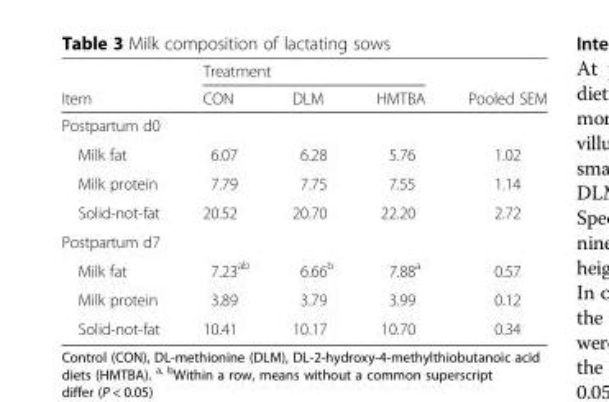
<table><thead><tr><td rowspan="2">Item</td><td colspan="3">Treatment</td><td rowspan="2">Pooled SEM</td></tr><tr><td>CON</td><td>DLM</td><td>HMTBA</td></tr></thead><tbody><tr><td colspan="5">Postpartum d0</td></tr><tr><td>Milk fat</td><td>6.07</td><td>6.28</td><td>5.76</td><td>1.02</td></tr><tr><td>Milk protein</td><td>7.79</td><td>7.75</td><td>7.55</td><td>1.14</td></tr><tr><td>Solid-not-fat</td><td>20.52</td><td>20.70</td><td>22.20</td><td>2.72</td></tr><tr><td colspan="5">Postpartum d7</td></tr><tr><td>Milk fat</td><td>7.23<sup>ab</sup></td><td>6.66<sup>b</sup></td><td>7.88<sup>a</sup></td><td>0.57</td></tr><tr><td>Milk protein</td><td>3.89</td><td>3.79</td><td>3.99</td><td>0.12</td></tr><tr><td>Solid-not-fat</td><td>10.41</td><td>10.17</td><td>10.70</td><td>0.34</td></tr></tbody></table>